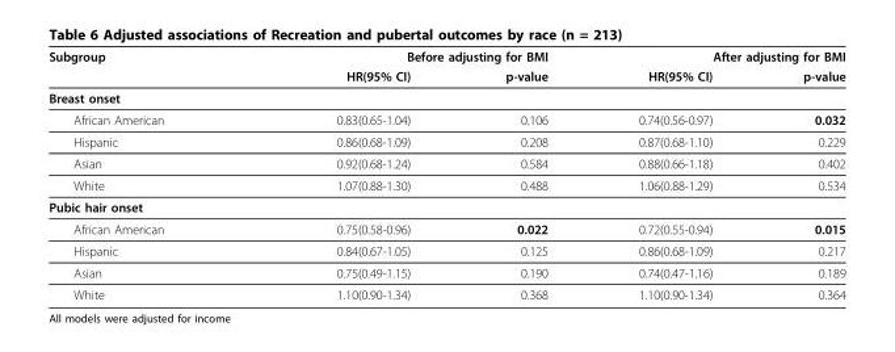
<table><thead><tr><td rowspan="2">Subgroup</td><td colspan="2">Before adjusting for BMI</td><td colspan="2">After adjusting for BMI</td></tr><tr><td>HR(95% CI)</td><td>p-value</td><td>HR(95% CI)</td><td>p-value</td></tr></thead><tbody><tr><td colspan="5">Breast onset</td></tr><tr><td>African American</td><td>0.83(0.65-1.04)</td><td>0.106</td><td>0.74(0.56-0.97)</td><td>0.032</td></tr><tr><td>Hispanic</td><td>0.86(0.68-1.09)</td><td>0.208</td><td>0.87(0.68-1.10)</td><td>0.229</td></tr><tr><td>Asian</td><td>0.92(0.68-1.24)</td><td>0.584</td><td>0.88(0.66-1.18)</td><td>0.402</td></tr><tr><td>White</td><td>1.07(0.88-1.30)</td><td>0.488</td><td>1.06(0.88-1.29)</td><td>0.534</td></tr><tr><td colspan="5">Pubic hair onset</td></tr><tr><td>African American</td><td>0.75(0.58-0.96)</td><td>0.022</td><td>0.72(0.55-0.94)</td><td>0.015</td></tr><tr><td>Hispanic</td><td>0.84(0.67-1.05)</td><td>0.125</td><td>0.86(0.68-1.09)</td><td>0.217</td></tr><tr><td>Asian</td><td>0.75(0.49-1.15)</td><td>0.190</td><td>0.74(0.47-1.16)</td><td>0.189</td></tr><tr><td>White</td><td>1.10(0.90-1.34)</td><td>0.368</td><td>1.10(0.90-1.34)</td><td>0.364</td></tr></tbody></table>